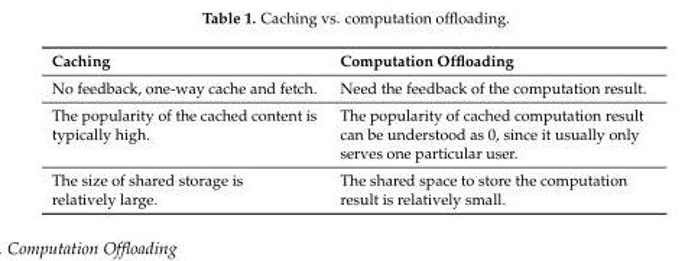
<table><thead><tr><td>Caching</td><td>Computation Offloading</td></tr></thead><tbody><tr><td>No feedback, one-way cache and fetch.</td><td>Need the feedback of the computation result.</td></tr><tr><td>The popularity of the cached content is typically high.</td><td>The popularity of cached computation result can be understood as 0, since it usually only serves one particular user.</td></tr><tr><td>The size of shared storage is relatively large.</td><td>The shared space to store the computation result is relatively small.</td></tr></tbody></table>